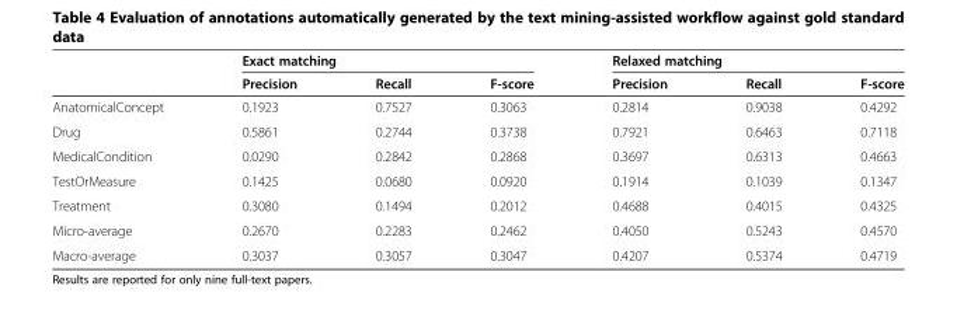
<table><thead><tr><td rowspan="2"></td><td colspan="3">Exact matching</td><td colspan="3">Relaxed matching</td></tr><tr><td>Precision</td><td>Recall</td><td>F-score</td><td>Precision</td><td>Recall</td><td>F-score</td></tr></thead><tbody><tr><td>AnatomicalConcept</td><td>0.1923</td><td>0.7527</td><td>0.3063</td><td>0.2814</td><td>0.9038</td><td>0.4292</td></tr><tr><td>Drug</td><td>0.5861</td><td>0.2744</td><td>0.3738</td><td>0.7921</td><td>0.6463</td><td>0.7118</td></tr><tr><td>MedicalCondition</td><td>0.0290</td><td>0.2842</td><td>0.2868</td><td>0.3697</td><td>0.6313</td><td>0.4663</td></tr><tr><td>TestOrMeasure</td><td>0.1425</td><td>0.0680</td><td>0.0920</td><td>0.1914</td><td>0.1039</td><td>0.1347</td></tr><tr><td>Treatment</td><td>0.3080</td><td>0.1494</td><td>0.2012</td><td>0.4688</td><td>0.4015</td><td>0.4325</td></tr><tr><td>Micro-average</td><td>0.2670</td><td>0.2283</td><td>0.2462</td><td>0.4050</td><td>0.5243</td><td>0.4570</td></tr><tr><td>Macro-average</td><td>0.3037</td><td>0.3057</td><td>0.3047</td><td>0.4207</td><td>0.5374</td><td>0.4719</td></tr></tbody></table>